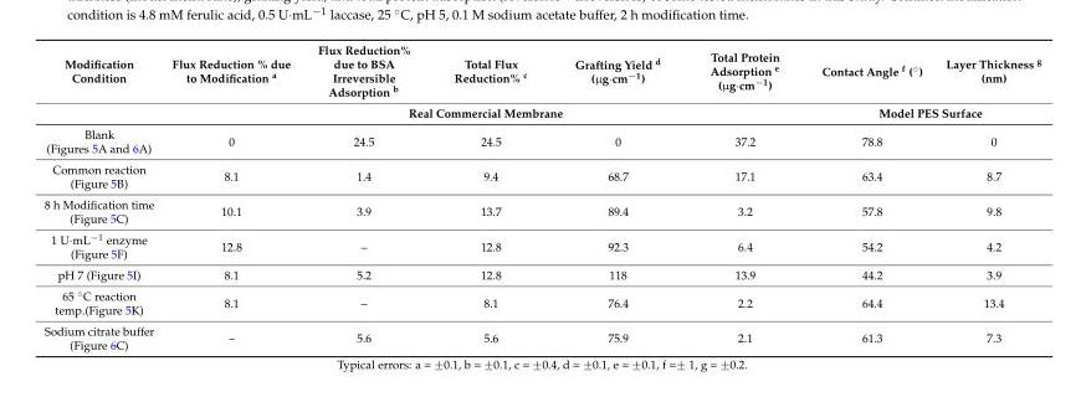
<table><thead><tr><td rowspan="2">Modification Condition</td><td>Flux Reduction % due to Modification <sup>a</sup></td><td>Flux Reduction% due to BSA Irreversible Adsorption <sup>b</sup></td><td>Total Flux Reduction% <sup>c</sup></td><td>Grafting Yield <sup>d</sup> (µg∙cm<sup>−1</sup>)</td><td>Total Protein Adsorption <sup>e</sup> (µg∙cm<sup>−1</sup>)</td><td>Contact Angle f (˝)</td><td>Layer Thickness <sup>g</sup> (nm)</td></tr><tr><td colspan="5">Real Commercial Membrane</td><td colspan="2">Model PES Surface</td></tr></thead><tbody><tr><td>Blank (Figures 5A and 6A)</td><td>0</td><td>24.5</td><td>24.5</td><td>0</td><td>37.2</td><td>78.8</td><td>0</td></tr><tr><td>Common reaction (Figure 5B)</td><td>8.1</td><td>1.4</td><td>9.4</td><td>68.7</td><td>17.1</td><td>63.4</td><td>8.7</td></tr><tr><td>8 h Modification time (Figure 5C)</td><td>10.1</td><td>3.9</td><td>13.7</td><td>89.4</td><td>3.2</td><td>57.8</td><td>9.8</td></tr><tr><td>1 U¨mL´1 enzyme (Figure 5F)</td><td>12.8</td><td>–</td><td>12.8</td><td>92.3</td><td>6.4</td><td>54.2</td><td>4.2</td></tr><tr><td>pH 7 (Figure 5I)</td><td>8.1</td><td>5.2</td><td>12.8</td><td>118</td><td>13.9</td><td>44.2</td><td>3.9</td></tr><tr><td>65 ˝C reaction temp.(Figure 5K)</td><td>8.1</td><td>–</td><td>8.1</td><td>76.4</td><td>2.2</td><td>64.4</td><td>13.4</td></tr><tr><td>Sodium citrate buffer (Figure 6C)</td><td>–</td><td>5.6</td><td>5.6</td><td>75.9</td><td>2.1</td><td>61.3</td><td>7.3</td></tr></tbody></table>